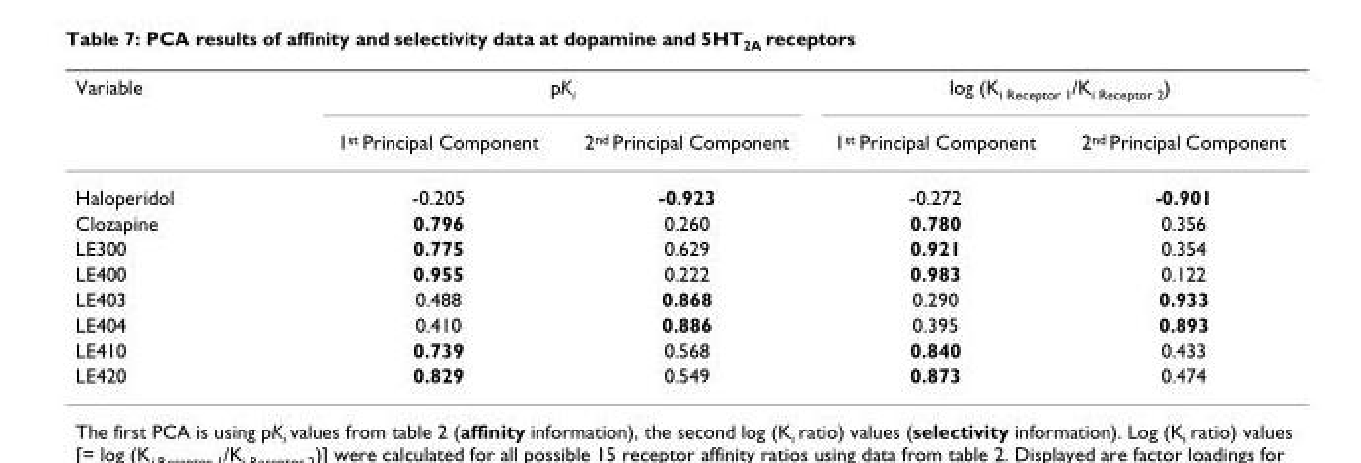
<table><thead><tr><td rowspan="2">Variable</td><td colspan="2">pK<sub>i</sub></td><td colspan="2">log (K<sub>i Receptor 1</sub>/K<sub>i Receptor 2</sub>)</td></tr><tr><td>1<sup>st</sup> Principal Component</td><td>2<sup>nd</sup> Principal Component</td><td>1<sup>st</sup> Principal Component</td><td>2<sup>nd</sup> Principal Component</td></tr></thead><tbody><tr><td>Haloperidol</td><td>-0.205</td><td>-0.923</td><td>-0.272</td><td>-0.901</td></tr><tr><td>Clozapine</td><td>0.796</td><td>0.260</td><td>0.780</td><td>0.356</td></tr><tr><td>LE300</td><td>0.775</td><td>0.629</td><td>0.921</td><td>0.354</td></tr><tr><td>LE400</td><td>0.955</td><td>0.222</td><td>0.983</td><td>0.122</td></tr><tr><td>LE403</td><td>0.488</td><td>0.868</td><td>0.290</td><td>0.933</td></tr><tr><td>LE404</td><td>0.410</td><td>0.886</td><td>0.395</td><td>0.893</td></tr><tr><td>LE410</td><td>0.739</td><td>0.568</td><td>0.840</td><td>0.433</td></tr><tr><td>LE420</td><td>0.829</td><td>0.549</td><td>0.873</td><td>0.474</td></tr></tbody></table>